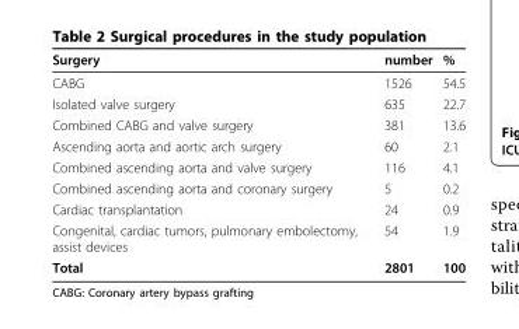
<table><thead><tr><td>Surgery</td><td>number</td><td>%</td></tr></thead><tbody><tr><td>CABG</td><td>1526</td><td>54.5</td></tr><tr><td>Isolated valve surgery</td><td>635</td><td>22.7</td></tr><tr><td>Combined CABG and valve surgery</td><td>381</td><td>13.6</td></tr><tr><td>Ascending aorta and aortic arch surgery</td><td>60</td><td>2.1</td></tr><tr><td>Combined ascending aorta and valve surgery</td><td>116</td><td>4.1</td></tr><tr><td>Combined ascending aorta and coronary surgery</td><td>5</td><td>0.2</td></tr><tr><td>Cardiac transplantation</td><td>24</td><td>0.9</td></tr><tr><td>Congenital, cardiac tumors, pulmonary embolectomy, assist devices</td><td>54</td><td>1.9</td></tr><tr><td>Total</td><td>2801</td><td>100</td></tr></tbody></table>